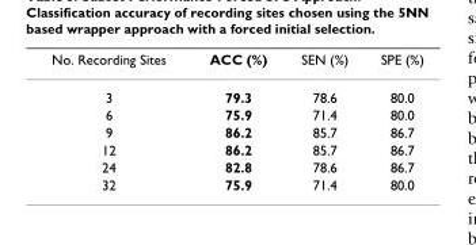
<table><thead><tr><td>No. Recording Sites</td><td>ACC (%)</td><td>SEN (%)</td><td>SPE (%)</td></tr></thead><tbody><tr><td>3</td><td>79.3</td><td>78.6</td><td>80.0</td></tr><tr><td>6</td><td>75.9</td><td>71.4</td><td>80.0</td></tr><tr><td>9</td><td>86.2</td><td>85.7</td><td>86.7</td></tr><tr><td>12</td><td>86.2</td><td>85.7</td><td>86.7</td></tr><tr><td>24</td><td>82.8</td><td>78.6</td><td>86.7</td></tr><tr><td>32</td><td>75.9</td><td>71.4</td><td>80.0</td></tr></tbody></table>